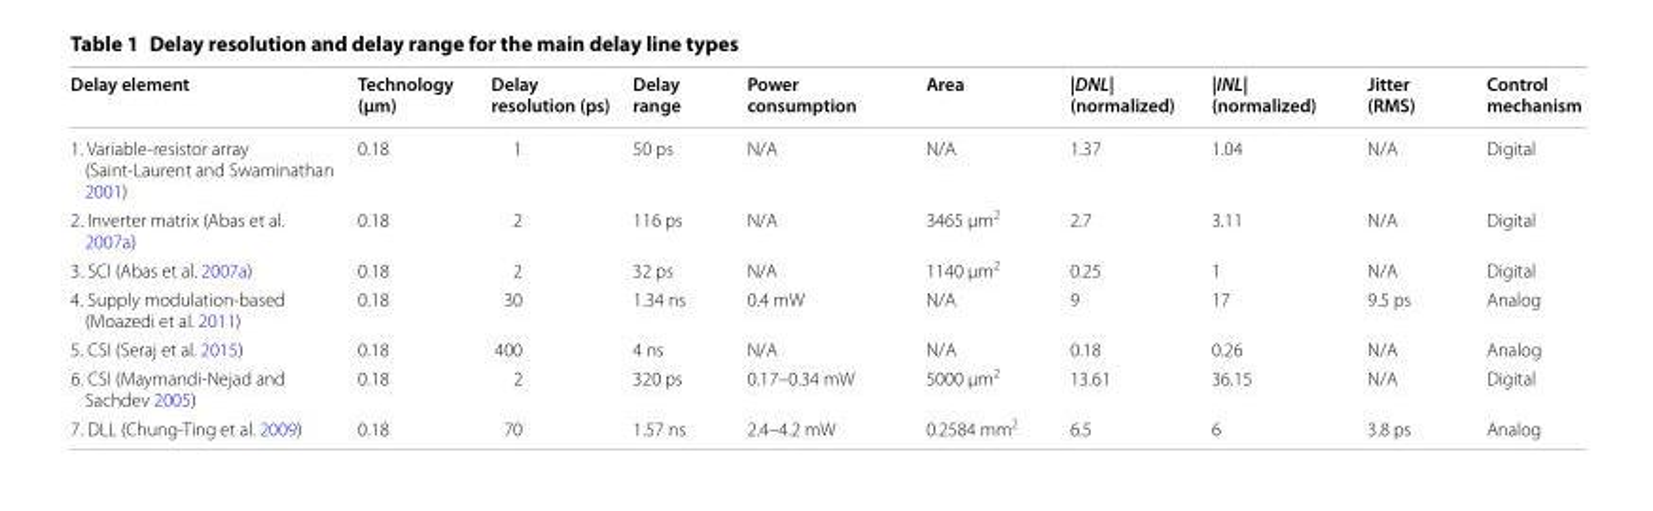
<table><thead><tr><td>Delay element</td><td>Technology (μm)</td><td>Delay resolution (ps)</td><td>Delay range</td><td>Power consumption</td><td>Area</td><td>|DNL| (normalized)</td><td>|INL| (normalized)</td><td>Jitter (RMS)</td><td>Control mechanism</td></tr></thead><tbody><tr><td>1. Variable-resistor array (Saint-Laurent and Swaminathan 2001)</td><td>0.18</td><td>1</td><td>50 ps</td><td>N/A</td><td>N/A</td><td>1.37</td><td>1.04</td><td>N/A</td><td>Digital</td></tr><tr><td>2. Inverter matrix (Abas et al. 2007a)</td><td>0.18</td><td>2</td><td>116 ps</td><td>N/A</td><td>3465 μm<sup>2</sup></td><td>2.7</td><td>3.11</td><td>N/A</td><td>Digital</td></tr><tr><td>3. SCI (Abas et al. 2007a)</td><td>0.18</td><td>2</td><td>32 ps</td><td>N/A</td><td>1140 μm<sup>2</sup></td><td>0.25</td><td>1</td><td>N/A</td><td>Digital</td></tr><tr><td>4. Supply modulation-based (Moazedi et al. 2011)</td><td>0.18</td><td>30</td><td>1.34 ns</td><td>0.4 mW</td><td>N/A</td><td>9</td><td>17</td><td>9.5 ps</td><td>Analog</td></tr><tr><td>5. CSI (Seraj et al. 2015)</td><td>0.18</td><td>400</td><td>4 ns</td><td>N/A</td><td>N/A</td><td>0.18</td><td>0.26</td><td>N/A</td><td>Analog</td></tr><tr><td>6. CSI (Maymandi-Nejad and Sachdev 2005)</td><td>0.18</td><td>2</td><td>320 ps</td><td>0.17–0.34 mW</td><td>5000 μm<sup>2</sup></td><td>13.61</td><td>36.15</td><td>N/A</td><td>Digital</td></tr><tr><td>7. DLL (Chung-Ting et al. 2009)</td><td>0.18</td><td>70</td><td>1.57 ns</td><td>2.4–4.2 mW</td><td>0.2584 mm<sup>2</sup></td><td>6.5</td><td>6</td><td>3.8 ps</td><td>Analog</td></tr></tbody></table>